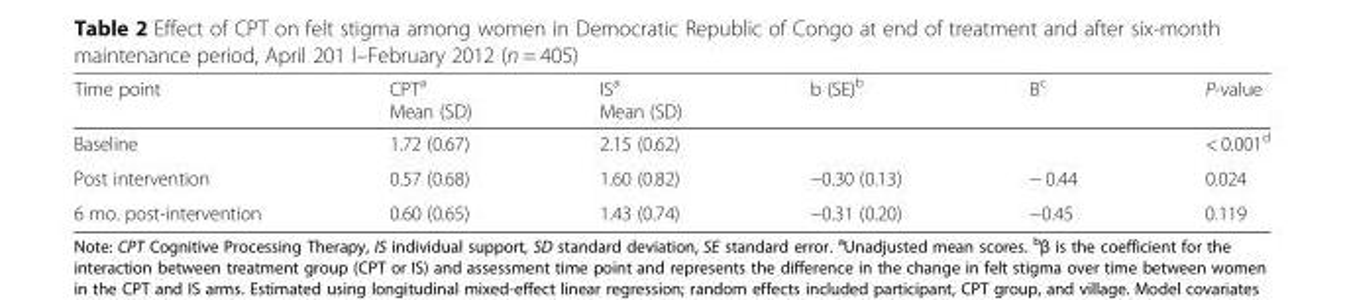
<table><thead><tr><td>Time point</td><td>CPT<sup>a</sup> Mean (SD)</td><td>IS<sup>a</sup> Mean (SD)</td><td>b (SE)<sup>b</sup></td><td>B<sup>c</sup></td><td>P-value</td></tr></thead><tbody><tr><td>Baseline</td><td>1.72 (0.67)</td><td>2.15 (0.62)</td><td></td><td></td><td>&lt; 0.001<sup>d</sup></td></tr><tr><td>Post intervention</td><td>0.57 (0.68)</td><td>1.60 (0.82)</td><td>−0.30 (0.13)</td><td>− 0.44</td><td>0.024</td></tr><tr><td>6 mo. post-intervention</td><td>0.60 (0.65)</td><td>1.43 (0.74)</td><td>−0.31 (0.20)</td><td>−0.45</td><td>0.119</td></tr></tbody></table>